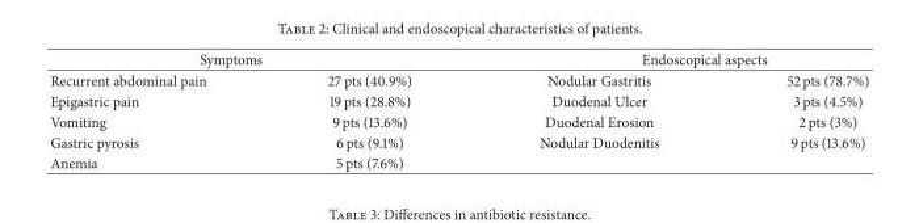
<table><thead><tr><td colspan="2">Symptoms</td><td colspan="2">Endoscopical aspects</td></tr><tr><td>Recurrent abdominal pain</td><td>27 pts (40.9%)</td><td>Nodular Gastritis</td><td>52 pts (78.7%)</td></tr></thead><tbody><tr><td>Epigastric pain</td><td>19 pts (28.8%)</td><td>Duodenal Ulcer</td><td>3 pts (4.5%)</td></tr><tr><td>Vomiting</td><td>9 pts (13.6%)</td><td>Duodenal Erosion</td><td>2 pts (3%)</td></tr><tr><td>Gastric pyrosis</td><td>6 pts (9.1%)</td><td>Nodular Duodenitis</td><td>9 pts (13.6%)</td></tr><tr><td>Anemia</td><td>5 pts (7.6%)</td><td></td><td></td></tr></tbody></table>